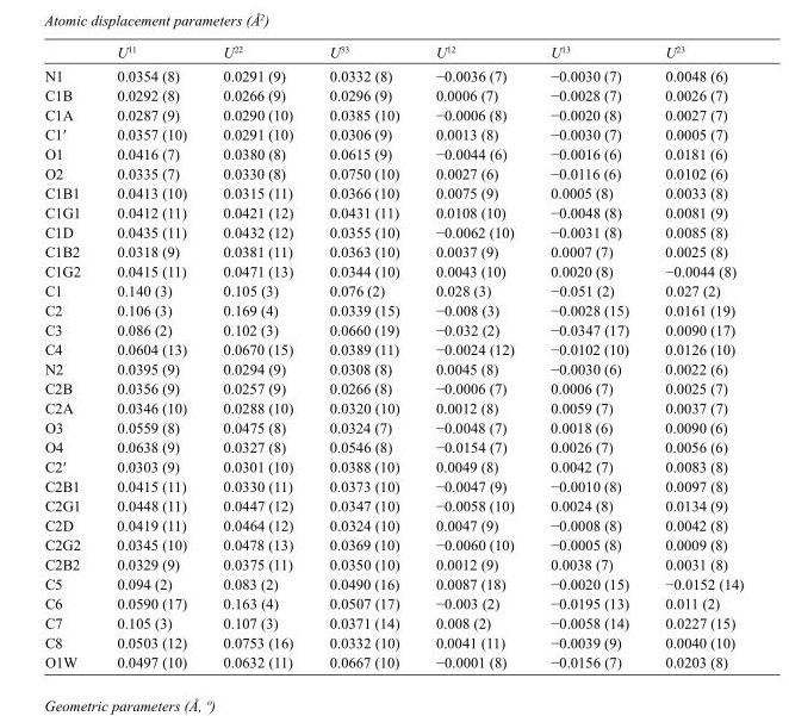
<table><thead><tr><td></td><td>U<sup>11</sup></td><td>U<sup>22</sup></td><td>U<sup>33</sup></td><td>U<sup>12</sup></td><td>U<sup>13</sup></td><td>U<sup>23</sup></td></tr></thead><tbody><tr><td>N1</td><td>0.0354 (8)</td><td>0.0291 (9)</td><td>0.0332 (8)</td><td>−0.0036 (7)</td><td>−0.0030 (7)</td><td>0.0048 (6)</td></tr><tr><td>C1B</td><td>0.0292 (8)</td><td>0.0266 (9)</td><td>0.0296 (9)</td><td>0.0006 (7)</td><td>−0.0028 (7)</td><td>0.0026 (7)</td></tr><tr><td>C1A</td><td>0.0287 (9)</td><td>0.0290 (10)</td><td>0.0385 (10)</td><td>−0.0006 (8)</td><td>−0.0020 (8)</td><td>0.0027 (7)</td></tr><tr><td>C1′</td><td>0.0357 (10)</td><td>0.0291 (10)</td><td>0.0306 (9)</td><td>0.0013 (8)</td><td>−0.0030 (7)</td><td>0.0005 (7)</td></tr><tr><td>O1</td><td>0.0416 (7)</td><td>0.0380 (8)</td><td>0.0615 (9)</td><td>−0.0044 (6)</td><td>−0.0016 (6)</td><td>0.0181 (6)</td></tr><tr><td>O2</td><td>0.0335 (7)</td><td>0.0330 (8)</td><td>0.0750 (10)</td><td>0.0027 (6)</td><td>−0.0116 (6)</td><td>0.0102 (6)</td></tr><tr><td>C1B1</td><td>0.0413 (10)</td><td>0.0315 (11)</td><td>0.0366 (10)</td><td>0.0075 (9)</td><td>0.0005 (8)</td><td>0.0033 (8)</td></tr><tr><td>C1G1</td><td>0.0412 (11)</td><td>0.0421 (12)</td><td>0.0431 (11)</td><td>0.0108 (10)</td><td>−0.0048 (8)</td><td>0.0081 (9)</td></tr><tr><td>C1D</td><td>0.0435 (11)</td><td>0.0432 (12)</td><td>0.0355 (10)</td><td>−0.0062 (10)</td><td>−0.0031 (8)</td><td>0.0085 (8)</td></tr><tr><td>C1B2</td><td>0.0318 (9)</td><td>0.0381 (11)</td><td>0.0363 (10)</td><td>0.0037 (9)</td><td>0.0007 (7)</td><td>0.0025 (8)</td></tr><tr><td>C1G2</td><td>0.0415 (11)</td><td>0.0471 (13)</td><td>0.0344 (10)</td><td>0.0043 (10)</td><td>0.0020 (8)</td><td>−0.0044 (8)</td></tr><tr><td>C1</td><td>0.140 (3)</td><td>0.105 (3)</td><td>0.076 (2)</td><td>0.028 (3)</td><td>−0.051 (2)</td><td>0.027 (2)</td></tr><tr><td>C2</td><td>0.106 (3)</td><td>0.169 (4)</td><td>0.0339 (15)</td><td>−0.008 (3)</td><td>−0.0028 (15)</td><td>0.0161 (19)</td></tr><tr><td>C3</td><td>0.086 (2)</td><td>0.102 (3)</td><td>0.0660 (19)</td><td>−0.032 (2)</td><td>−0.0347 (17)</td><td>0.0090 (17)</td></tr><tr><td>C4</td><td>0.0604 (13)</td><td>0.0670 (15)</td><td>0.0389 (11)</td><td>−0.0024 (12)</td><td>−0.0102 (10)</td><td>0.0126 (10)</td></tr><tr><td>N2</td><td>0.0395 (9)</td><td>0.0294 (9)</td><td>0.0308 (8)</td><td>0.0045 (8)</td><td>−0.0030 (6)</td><td>0.0022 (6)</td></tr><tr><td>C2B</td><td>0.0356 (9)</td><td>0.0257 (9)</td><td>0.0266 (8)</td><td>−0.0006 (7)</td><td>0.0006 (7)</td><td>0.0025 (7)</td></tr><tr><td>C2A</td><td>0.0346 (10)</td><td>0.0288 (10)</td><td>0.0320 (10)</td><td>0.0012 (8)</td><td>0.0059 (7)</td><td>0.0037 (7)</td></tr><tr><td>O3</td><td>0.0559 (8)</td><td>0.0475 (8)</td><td>0.0324 (7)</td><td>−0.0048 (7)</td><td>0.0018 (6)</td><td>0.0090 (6)</td></tr><tr><td>O4</td><td>0.0638 (9)</td><td>0.0327 (8)</td><td>0.0546 (8)</td><td>−0.0154 (7)</td><td>0.0026 (7)</td><td>0.0056 (6)</td></tr><tr><td>C2′</td><td>0.0303 (9)</td><td>0.0301 (10)</td><td>0.0388 (10)</td><td>0.0049 (8)</td><td>0.0042 (7)</td><td>0.0083 (8)</td></tr><tr><td>C2B1</td><td>0.0415 (11)</td><td>0.0330 (11)</td><td>0.0373 (10)</td><td>−0.0047 (9)</td><td>−0.0010 (8)</td><td>0.0097 (8)</td></tr><tr><td>C2G1</td><td>0.0448 (11)</td><td>0.0447 (12)</td><td>0.0347 (10)</td><td>−0.0058 (10)</td><td>0.0024 (8)</td><td>0.0134 (9)</td></tr><tr><td>C2D</td><td>0.0419 (11)</td><td>0.0464 (12)</td><td>0.0324 (10)</td><td>0.0047 (9)</td><td>−0.0008 (8)</td><td>0.0042 (8)</td></tr><tr><td>C2G2</td><td>0.0345 (10)</td><td>0.0478 (13)</td><td>0.0369 (10)</td><td>−0.0060 (10)</td><td>−0.0005 (8)</td><td>0.0009 (8)</td></tr><tr><td>C2B2</td><td>0.0329 (9)</td><td>0.0375 (11)</td><td>0.0350 (10)</td><td>0.0012 (9)</td><td>0.0038 (7)</td><td>0.0031 (8)</td></tr><tr><td>C5</td><td>0.094 (2)</td><td>0.083 (2)</td><td>0.0490 (16)</td><td>0.0087 (18)</td><td>−0.0020 (15)</td><td>−0.0152 (14)</td></tr><tr><td>C6</td><td>0.0590 (17)</td><td>0.163 (4)</td><td>0.0507 (17)</td><td>−0.003 (2)</td><td>−0.0195 (13)</td><td>0.011 (2)</td></tr><tr><td>C7</td><td>0.105 (3)</td><td>0.107 (3)</td><td>0.0371 (14)</td><td>0.008 (2)</td><td>−0.0058 (14)</td><td>0.0227 (15)</td></tr><tr><td>C8</td><td>0.0503 (12)</td><td>0.0753 (16)</td><td>0.0332 (10)</td><td>0.0041 (11)</td><td>−0.0039 (9)</td><td>0.0040 (10)</td></tr><tr><td>O1W</td><td>0.0497 (10)</td><td>0.0632 (11)</td><td>0.0667 (10)</td><td>−0.0001 (8)</td><td>−0.0156 (7)</td><td>0.0203 (8)</td></tr></tbody></table>